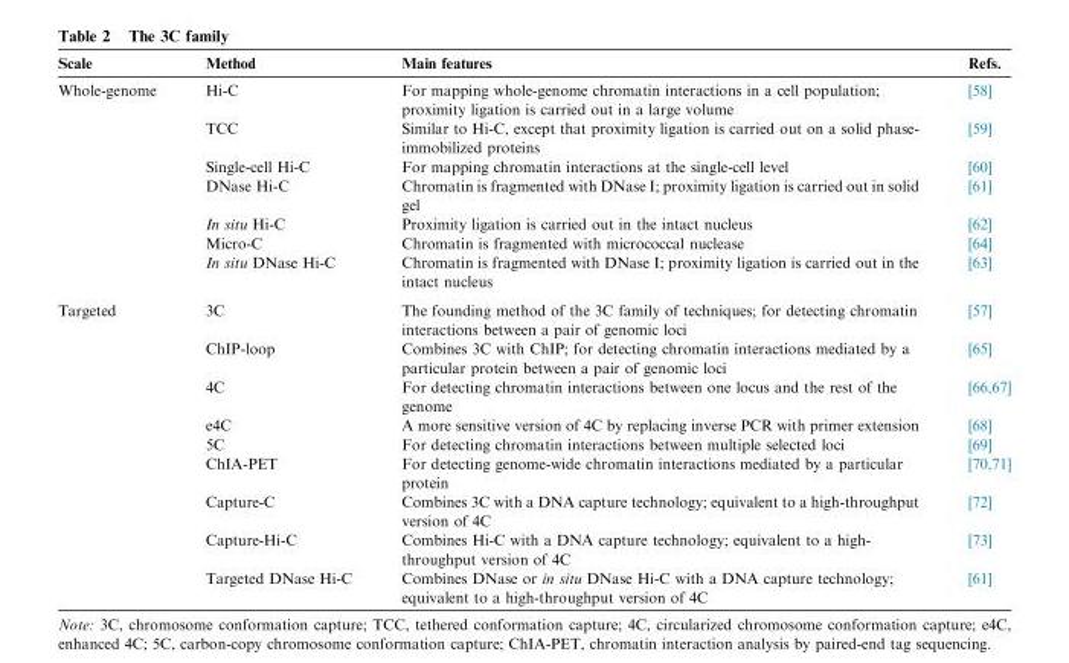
<table><thead><tr><td>Scale</td><td>Method</td><td>Main features</td><td>Refs.</td></tr></thead><tbody><tr><td rowspan="7">Whole-genome</td><td>Hi-C</td><td>For mapping whole-genome chromatin interactions in a cell population; proximity ligation is carried out in a large volume</td><td>[58]</td></tr><tr><td>TCC</td><td>Similar to Hi-C, except that proximity ligation is carried out on a solid phase- immobilized proteins</td><td>[59]</td></tr><tr><td>Single-cell Hi-C</td><td>For mapping chromatin interactions at the single-cell level</td><td>[60]</td></tr><tr><td>DNase Hi-C</td><td>Chromatin is fragmented with DNase I; proximity ligation is carried out in solid gel</td><td>[61]</td></tr><tr><td>In situ Hi-C</td><td>Proximity ligation is carried out in the intact nucleus</td><td>[62]</td></tr><tr><td>Micro-C</td><td>Chromatin is fragmented with micrococcal nuclease</td><td>[64]</td></tr><tr><td>In situ DNase Hi-C</td><td>Chromatin is fragmented with DNase I; proximity ligation is carried out in the intact nucleus</td><td>[63]</td></tr><tr><td rowspan="9">Targeted</td><td>3C</td><td>The founding method of the 3C family of techniques; for detecting chromatin interactions between a pair of genomic loci</td><td>[57]</td></tr><tr><td>ChIP-loop</td><td>Combines 3C with ChIP; for detecting chromatin interactions mediated by a particular protein between a pair of genomic loci</td><td>[65]</td></tr><tr><td>4C</td><td>For detecting chromatin interactions between one locus and the rest of the genome</td><td>[66,67]</td></tr><tr><td>e4C</td><td>A more sensitive version of 4C by replacing inverse PCR with primer extension</td><td>[68]</td></tr><tr><td>5C</td><td>For detecting chromatin interactions between multiple selected loci</td><td>[69]</td></tr><tr><td>ChIA-PET</td><td>For detecting genome-wide chromatin interactions mediated by a particular protein</td><td>[70,71]</td></tr><tr><td>Capture-C</td><td>Combines 3C with a DNA capture technology; equivalent to a high-throughput version of 4C</td><td>[72]</td></tr><tr><td>Capture-Hi-C</td><td>Combines Hi-C with a DNA capture technology; equivalent to a high- throughput version of 4C</td><td>[73]</td></tr><tr><td>Targeted DNase Hi-C</td><td>Combines DNase or in situ DNase Hi-C with a DNA capture technology; equivalent to a high-throughput version of 4C</td><td>[61]</td></tr></tbody></table>